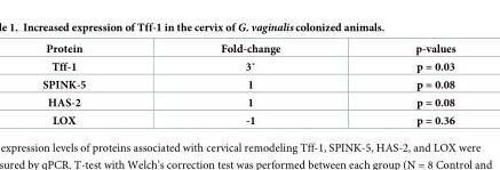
<table><thead><tr><td>Protein</td><td>Fold-change</td><td>p-values</td></tr></thead><tbody><tr><td>Tff-1</td><td>3*</td><td>p = 0.03</td></tr><tr><td>SPINK-5</td><td>1</td><td>p = 0.08</td></tr><tr><td>HAS-2</td><td>1</td><td>p = 0.08</td></tr><tr><td>LOX</td><td>-1</td><td>p = 0.36</td></tr></tbody></table>